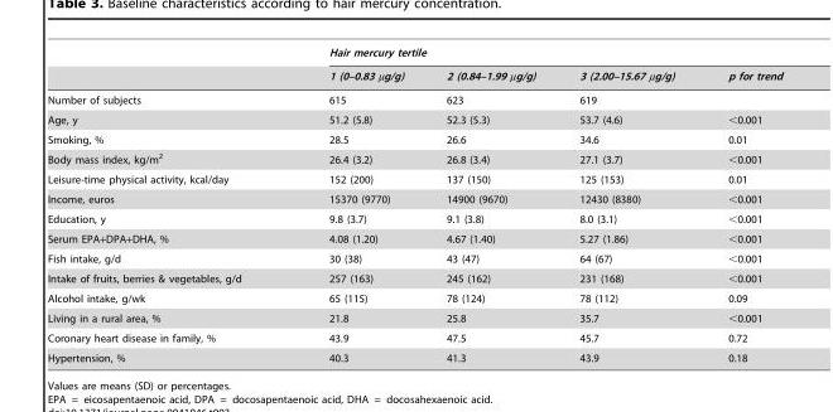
<table><thead><tr><td rowspan="2"></td><td colspan="4">Hair mercury tertile</td></tr><tr><td>1 (0–0.83 µg/g)</td><td>2 (0.84–1.99 µg/g)</td><td>3 (2.00–15.67 µg/g)</td><td>p for trend</td></tr></thead><tbody><tr><td>Number of subjects</td><td>615</td><td>623</td><td>619</td><td></td></tr><tr><td>Age, y</td><td>51.2 (5.8)</td><td>52.3 (5.3)</td><td>53.7 (4.6)</td><td>&lt;0.001</td></tr><tr><td>Smoking, %</td><td>28.5</td><td>26.6</td><td>34.6</td><td>0.01</td></tr><tr><td>Body mass index, kg/m<sup>2</sup></td><td>26.4 (3.2)</td><td>26.8 (3.4)</td><td>27.1 (3.7)</td><td>&lt;0.001</td></tr><tr><td>Leisure-time physical activity, kcal/day</td><td>152 (200)</td><td>137 (150)</td><td>125 (153)</td><td>0.01</td></tr><tr><td>Income, euros</td><td>15370 (9770)</td><td>14900 (9670)</td><td>12430 (8380)</td><td>&lt;0.001</td></tr><tr><td>Education, y</td><td>9.8 (3.7)</td><td>9.1 (3.8)</td><td>8.0 (3.1)</td><td>&lt;0.001</td></tr><tr><td>Serum EPA+DPA+DHA, %</td><td>4.08 (1.20)</td><td>4.67 (1.40)</td><td>5.27 (1.86)</td><td>&lt;0.001</td></tr><tr><td>Fish intake, g/d</td><td>30 (38)</td><td>43 (47)</td><td>64 (67)</td><td>&lt;0.001</td></tr><tr><td>Intake of fruits, berries &amp; vegetables, g/d</td><td>257 (163)</td><td>245 (162)</td><td>231 (168)</td><td>&lt;0.001</td></tr><tr><td>Alcohol intake, g/wk</td><td>65 (115)</td><td>78 (124)</td><td>78 (112)</td><td>0.09</td></tr><tr><td>Living in a rural area, %</td><td>21.8</td><td>25.8</td><td>35.7</td><td>&lt;0.001</td></tr><tr><td>Coronary heart disease in family, %</td><td>43.9</td><td>47.5</td><td>45.7</td><td>0.72</td></tr><tr><td>Hypertension, %</td><td>40.3</td><td>41.3</td><td>43.9</td><td>0.18</td></tr></tbody></table>